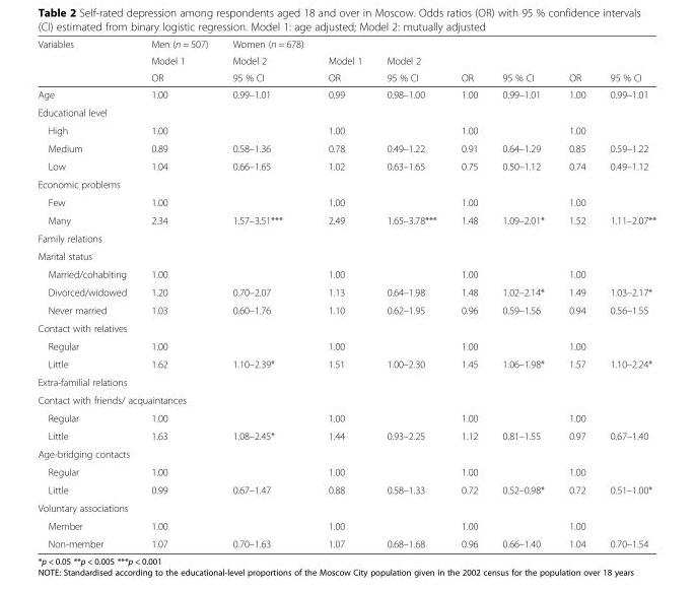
<table><thead><tr><td rowspan="3">Variables</td><td rowspan="3">Men (n = 507) Model 1 OR</td><td rowspan="3">Women (n = 678) Model 2 95 % CI</td><td rowspan="3">Model 1 OR</td><td rowspan="3">Model 2 95 % CI</td><td rowspan="3">OR</td><td rowspan="3">95 % CI</td><td rowspan="3">OR</td><td rowspan="3">95 % CI</td></tr><tr></tr><tr></tr></thead><tbody><tr><td>Age</td><td>1.00</td><td>0.99–1.01</td><td>0.99</td><td>0.98–1.00</td><td>1.00</td><td>0.99–1.01</td><td>1.00</td><td>0.99–1.01</td></tr><tr><td colspan="9">Educational level</td></tr><tr><td>High</td><td>1.00</td><td></td><td>1.00</td><td></td><td>1.00</td><td></td><td>1.00</td><td></td></tr><tr><td>Medium</td><td>0.89</td><td>0.58–1.36</td><td>0.78</td><td>0.49–1.22</td><td>0.91</td><td>0.64–1.29</td><td>0.85</td><td>0.59–1.22</td></tr><tr><td>Low</td><td>1.04</td><td>0.66–1.65</td><td>1.02</td><td>0.63–1.65</td><td>0.75</td><td>0.50–1.12</td><td>0.74</td><td>0.49–1.12</td></tr><tr><td colspan="9">Economic problems</td></tr><tr><td>Few</td><td>1.00</td><td></td><td>1.00</td><td></td><td>1.00</td><td></td><td>1.00</td><td></td></tr><tr><td>Many</td><td>2.34</td><td>1.57–3.51***</td><td>2.49</td><td>1.65–3.78***</td><td>1.48</td><td>1.09–2.01*</td><td>1.52</td><td>1.11–2.07**</td></tr><tr><td colspan="9">Family relations</td></tr><tr><td colspan="9">Marital status</td></tr><tr><td>Married/cohabiting</td><td>1.00</td><td></td><td>1.00</td><td></td><td>1.00</td><td></td><td>1.00</td><td></td></tr><tr><td>Divorced/widowed</td><td>1.20</td><td>0.70–2.07</td><td>1.13</td><td>0.64–1.98</td><td>1.48</td><td>1.02–2.14*</td><td>1.49</td><td>1.03–2.17*</td></tr><tr><td>Never married</td><td>1.03</td><td>0.60–1.76</td><td>1.10</td><td>0.62–1.95</td><td>0.96</td><td>0.59–1.56</td><td>0.94</td><td>0.56–1.55</td></tr><tr><td colspan="9">Contact with relatives</td></tr><tr><td>Regular</td><td>1.00</td><td></td><td>1.00</td><td></td><td>1.00</td><td></td><td>1.00</td><td></td></tr><tr><td>Little</td><td>1.62</td><td>1.10–2.39*</td><td>1.51</td><td>1.00–2.30</td><td>1.45</td><td>1.06–1.98*</td><td>1.57</td><td>1.10–2.24*</td></tr><tr><td colspan="9">Extra-familial relations</td></tr><tr><td colspan="9">Contact with friends/ acquaintances</td></tr><tr><td>Regular</td><td>1.00</td><td></td><td>1.00</td><td></td><td>1.00</td><td></td><td>1.00</td><td></td></tr><tr><td>Little</td><td>1.63</td><td>1.08–2.45*</td><td>1.44</td><td>0.93–2.25</td><td>1.12</td><td>0.81–1.55</td><td>0.97</td><td>0.67–1.40</td></tr><tr><td colspan="9">Age-bridging contacts</td></tr><tr><td>Regular</td><td>1.00</td><td></td><td>1.00</td><td></td><td>1.00</td><td></td><td>1.00</td><td></td></tr><tr><td>Little</td><td>0.99</td><td>0.67–1.47</td><td>0.88</td><td>0.58–1.33</td><td>0.72</td><td>0.52–0.98*</td><td>0.72</td><td>0.51–1.00*</td></tr><tr><td colspan="9">Voluntary associations</td></tr><tr><td>Member</td><td>1.00</td><td></td><td>1.00</td><td></td><td>1.00</td><td></td><td>1.00</td><td></td></tr><tr><td>Non-member</td><td>1.07</td><td>0.70–1.63</td><td>1.07</td><td>0.68–1.68</td><td>0.96</td><td>0.66–1.40</td><td>1.04</td><td>0.70–1.54</td></tr></tbody></table>